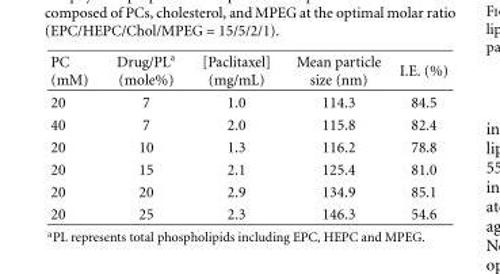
<table><thead><tr><td>PC (mM)</td><td>Drug/PL<sup>a</sup> (mole%)</td><td>[Paclitaxel] (mg/mL)</td><td>Mean particle size (nm)</td><td>I.E. (%)</td></tr></thead><tbody><tr><td>20</td><td>7</td><td>1.0</td><td>114.3</td><td>84.5</td></tr><tr><td>40</td><td>7</td><td>2.0</td><td>115.8</td><td>82.4</td></tr><tr><td>20</td><td>10</td><td>1.3</td><td>116.2</td><td>78.8</td></tr><tr><td>20</td><td>15</td><td>2.1</td><td>125.4</td><td>81.0</td></tr><tr><td>20</td><td>20</td><td>2.9</td><td>134.9</td><td>85.1</td></tr><tr><td>20</td><td>25</td><td>2.3</td><td>146.3</td><td>54.6</td></tr></tbody></table>